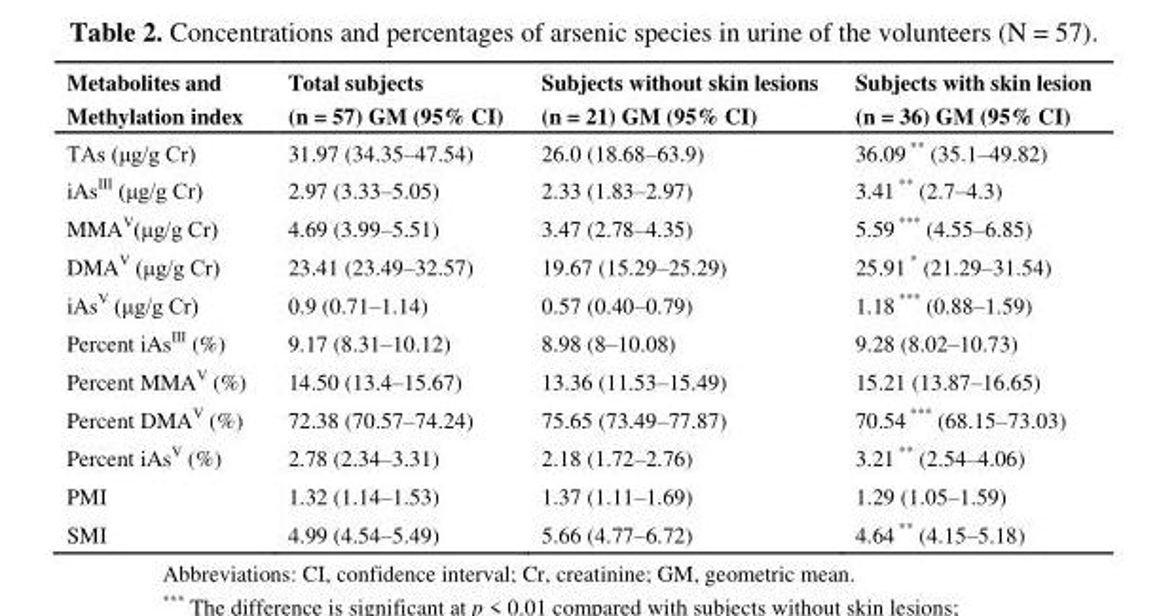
<table><thead><tr><td>Metabolites and Methylation index</td><td>Total subjects (n = 57) GM (95% CI)</td><td>Subjects without skin lesions (n = 21) GM (95% CI)</td><td>Subjects with skin lesion (n = 36) GM (95% CI)</td></tr></thead><tbody><tr><td>TAs (μg/g Cr)</td><td>31.97 (34.35–47.54)</td><td>26.0 (18.68–63.9)</td><td>36.09 ** (35.1–49.82)</td></tr><tr><td>iAs<sup>III</sup> (μg/g Cr)</td><td>2.97 (3.33–5.05)</td><td>2.33 (1.83–2.97)</td><td>3.41 ** (2.7–4.3)</td></tr><tr><td>MMA<sup>V</sup>(μg/g Cr)</td><td>4.69 (3.99–5.51)</td><td>3.47 (2.78–4.35)</td><td>5.59 *** (4.55–6.85)</td></tr><tr><td>DMA<sup>V</sup> (μg/g Cr)</td><td>23.41 (23.49–32.57)</td><td>19.67 (15.29–25.29)</td><td>25.91 * (21.29–31.54)</td></tr><tr><td>iAs<sup>V</sup> (μg/g Cr)</td><td>0.9 (0.71–1.14)</td><td>0.57 (0.40–0.79)</td><td>1.18 *** (0.88–1.59)</td></tr><tr><td>Percent iAs<sup>III</sup> (%)</td><td>9.17 (8.31–10.12)</td><td>8.98 (8–10.08)</td><td>9.28 (8.02–10.73)</td></tr><tr><td>Percent MMA<sup>V</sup> (%)</td><td>14.50 (13.4–15.67)</td><td>13.36 (11.53–15.49)</td><td>15.21 (13.87–16.65)</td></tr><tr><td>Percent DMA<sup>V</sup> (%)</td><td>72.38 (70.57–74.24)</td><td>75.65 (73.49–77.87)</td><td>70.54 *** (68.15–73.03)</td></tr><tr><td>Percent iAs<sup>V</sup> (%)</td><td>2.78 (2.34–3.31)</td><td>2.18 (1.72–2.76)</td><td>3.21 ** (2.54–4.06)</td></tr><tr><td>PMI</td><td>1.32 (1.14–1.53)</td><td>1.37 (1.11–1.69)</td><td>1.29 (1.05–1.59)</td></tr><tr><td>SMI</td><td>4.99 (4.54–5.49)</td><td>5.66 (4.77–6.72)</td><td>4.64 ** (4.15–5.18)</td></tr></tbody></table>